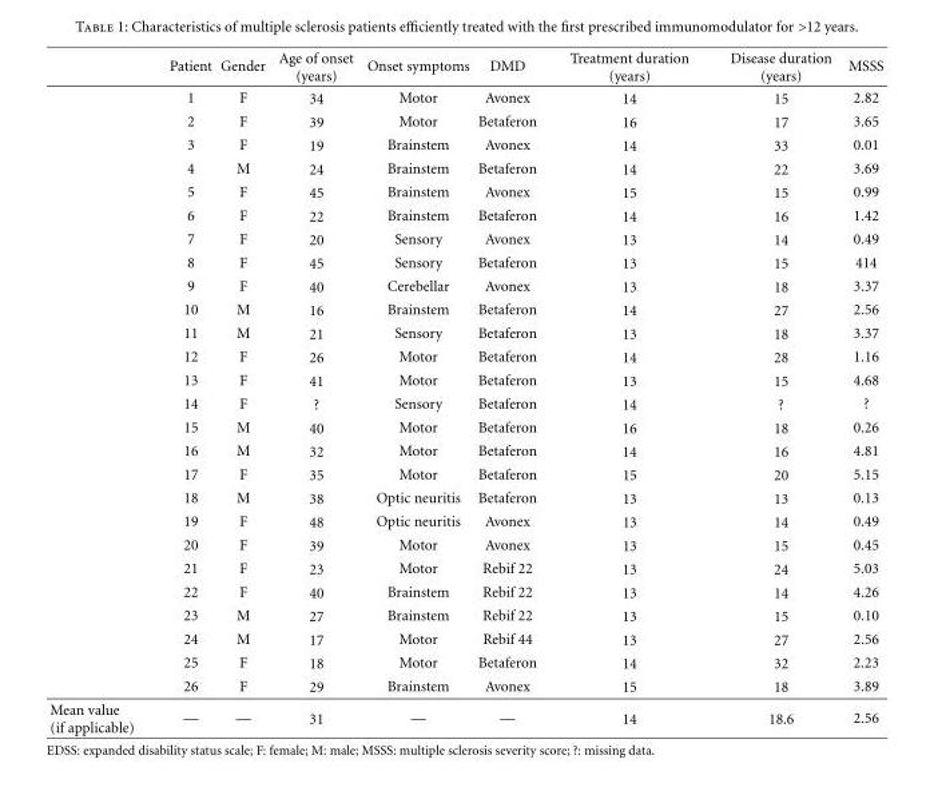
<table><thead><tr><td></td><td>Patient</td><td>Gender</td><td>Age of onset (years)</td><td>Onset symptoms</td><td>DMD</td><td>Treatment duration (years)</td><td>Disease duration (years)</td><td>MSSS</td></tr></thead><tbody><tr><td></td><td>1</td><td>F</td><td>34</td><td>Motor</td><td>Avonex</td><td>14</td><td>15</td><td>2.82</td></tr><tr><td></td><td>2</td><td>F</td><td>39</td><td>Motor</td><td>Betaferon</td><td>16</td><td>17</td><td>3.65</td></tr><tr><td></td><td>3</td><td>F</td><td>19</td><td>Brainstem</td><td>Avonex</td><td>14</td><td>33</td><td>0.01</td></tr><tr><td></td><td>4</td><td>M</td><td>24</td><td>Brainstem</td><td>Betaferon</td><td>14</td><td>22</td><td>3.69</td></tr><tr><td></td><td>5</td><td>F</td><td>45</td><td>Brainstem</td><td>Avonex</td><td>15</td><td>15</td><td>0.99</td></tr><tr><td></td><td>6</td><td>F</td><td>22</td><td>Brainstem</td><td>Betaferon</td><td>14</td><td>16</td><td>1.42</td></tr><tr><td></td><td>7</td><td>F</td><td>20</td><td>Sensory</td><td>Avonex</td><td>13</td><td>14</td><td>0.49</td></tr><tr><td></td><td>8</td><td>F</td><td>45</td><td>Sensory</td><td>Betaferon</td><td>13</td><td>15</td><td>414</td></tr><tr><td></td><td>9</td><td>F</td><td>40</td><td>Cerebellar</td><td>Avonex</td><td>13</td><td>18</td><td>3.37</td></tr><tr><td></td><td>10</td><td>M</td><td>16</td><td>Brainstem</td><td>Betaferon</td><td>14</td><td>27</td><td>2.56</td></tr><tr><td></td><td>11</td><td>M</td><td>21</td><td>Sensory</td><td>Betaferon</td><td>13</td><td>18</td><td>3.37</td></tr><tr><td></td><td>12</td><td>F</td><td>26</td><td>Motor</td><td>Betaferon</td><td>14</td><td>28</td><td>1.16</td></tr><tr><td></td><td>13</td><td>F</td><td>41</td><td>Motor</td><td>Betaferon</td><td>13</td><td>15</td><td>4.68</td></tr><tr><td></td><td>14</td><td>F</td><td>?</td><td>Sensory</td><td>Betaferon</td><td>14</td><td>?</td><td>?</td></tr><tr><td></td><td>15</td><td>M</td><td>40</td><td>Motor</td><td>Betaferon</td><td>16</td><td>18</td><td>0.26</td></tr><tr><td></td><td>16</td><td>M</td><td>32</td><td>Motor</td><td>Betaferon</td><td>14</td><td>16</td><td>4.81</td></tr><tr><td></td><td>17</td><td>F</td><td>35</td><td>Motor</td><td>Betaferon</td><td>15</td><td>20</td><td>5.15</td></tr><tr><td></td><td>18</td><td>M</td><td>38</td><td>Optic neuritis</td><td>Betaferon</td><td>13</td><td>13</td><td>0.13</td></tr><tr><td></td><td>19</td><td>F</td><td>48</td><td>Optic neuritis</td><td>Avonex</td><td>13</td><td>14</td><td>0.49</td></tr><tr><td></td><td>20</td><td>F</td><td>39</td><td>Motor</td><td>Avonex</td><td>13</td><td>15</td><td>0.45</td></tr><tr><td></td><td>21</td><td>F</td><td>23</td><td>Motor</td><td>Rebif 22</td><td>13</td><td>24</td><td>5.03</td></tr><tr><td></td><td>22</td><td>F</td><td>40</td><td>Brainstem</td><td>Rebif 22</td><td>13</td><td>14</td><td>4.26</td></tr><tr><td></td><td>23</td><td>M</td><td>27</td><td>Brainstem</td><td>Rebif 22</td><td>13</td><td>15</td><td>0.10</td></tr><tr><td></td><td>24</td><td>M</td><td>17</td><td>Motor</td><td>Rebif 44</td><td>13</td><td>27</td><td>2.56</td></tr><tr><td></td><td>25</td><td>F</td><td>18</td><td>Motor</td><td>Betaferon</td><td>14</td><td>32</td><td>2.23</td></tr><tr><td></td><td>26</td><td>F</td><td>29</td><td>Brainstem</td><td>Avonex</td><td>15</td><td>18</td><td>3.89</td></tr><tr><td>Mean value (if applicable)</td><td>—</td><td>—</td><td>31</td><td>—</td><td>—</td><td>14</td><td>18.6</td><td>2.56</td></tr></tbody></table>